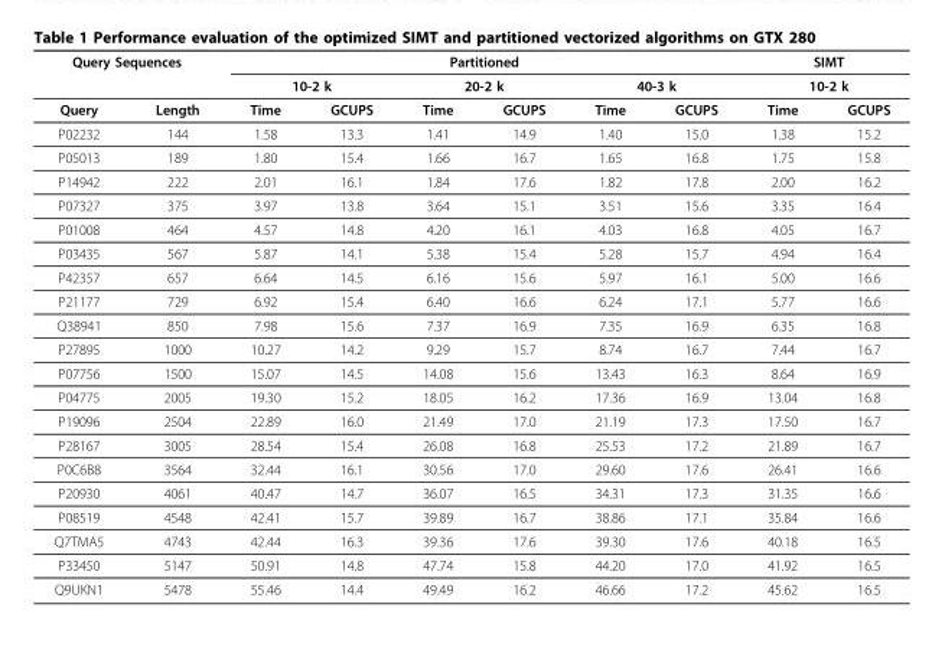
<table><thead><tr><td colspan="2">Query Sequences</td><td colspan="6">Partitioned</td><td rowspan="2" colspan="2">SIMT 10-2 k</td></tr><tr><td rowspan="2">Query</td><td rowspan="2">Length</td><td colspan="2">10-2 k</td><td colspan="2">20-2 k</td><td colspan="2">40-3 k</td></tr><tr><td>Time</td><td>GCUPS</td><td>Time</td><td>GCUPS</td><td>Time</td><td>GCUPS</td><td>Time</td><td>GCUPS</td></tr></thead><tbody><tr><td>P02232</td><td>144</td><td>1.58</td><td>13.3</td><td>1.41</td><td>14.9</td><td>1.40</td><td>15.0</td><td>1.38</td><td>15.2</td></tr><tr><td>P05013</td><td>189</td><td>1.80</td><td>15.4</td><td>1.66</td><td>16.7</td><td>1.65</td><td>16.8</td><td>1.75</td><td>15.8</td></tr><tr><td>P14942</td><td>222</td><td>2.01</td><td>16.1</td><td>1.84</td><td>17.6</td><td>1.82</td><td>17.8</td><td>2.00</td><td>16.2</td></tr><tr><td>P07327</td><td>375</td><td>3.97</td><td>13.8</td><td>3.64</td><td>15.1</td><td>3.51</td><td>15.6</td><td>3.35</td><td>16.4</td></tr><tr><td>P01008</td><td>464</td><td>4.57</td><td>14.8</td><td>4.20</td><td>16.1</td><td>4.03</td><td>16.8</td><td>4.05</td><td>16.7</td></tr><tr><td>P03435</td><td>567</td><td>5.87</td><td>14.1</td><td>5.38</td><td>15.4</td><td>5.28</td><td>15.7</td><td>4.94</td><td>16.4</td></tr><tr><td>P42357</td><td>657</td><td>6.64</td><td>14.5</td><td>6.16</td><td>15.6</td><td>5.97</td><td>16.1</td><td>5.00</td><td>16.6</td></tr><tr><td>P21177</td><td>729</td><td>6.92</td><td>15.4</td><td>6.40</td><td>16.6</td><td>6.24</td><td>17.1</td><td>5.77</td><td>16.6</td></tr><tr><td>Q38941</td><td>850</td><td>7.98</td><td>15.6</td><td>7.37</td><td>16.9</td><td>7.35</td><td>16.9</td><td>6.35</td><td>16.8</td></tr><tr><td>P27895</td><td>1000</td><td>10.27</td><td>14.2</td><td>9.29</td><td>15.7</td><td>8.74</td><td>16.7</td><td>7.44</td><td>16.7</td></tr><tr><td>P07756</td><td>1500</td><td>15.07</td><td>14.5</td><td>14.08</td><td>15.6</td><td>13.43</td><td>16.3</td><td>8.64</td><td>16.9</td></tr><tr><td>P04775</td><td>2005</td><td>19.30</td><td>15.2</td><td>18.05</td><td>16.2</td><td>17.36</td><td>16.9</td><td>13.04</td><td>16.8</td></tr><tr><td>P19096</td><td>2504</td><td>22.89</td><td>16.0</td><td>21.49</td><td>17.0</td><td>21.19</td><td>17.3</td><td>17.50</td><td>16.7</td></tr><tr><td>P28167</td><td>3005</td><td>28.54</td><td>15.4</td><td>26.08</td><td>16.8</td><td>25.53</td><td>17.2</td><td>21.89</td><td>16.7</td></tr><tr><td>P0C6B8</td><td>3564</td><td>32.44</td><td>16.1</td><td>30.56</td><td>17.0</td><td>29.60</td><td>17.6</td><td>26.41</td><td>16.6</td></tr><tr><td>P20930</td><td>4061</td><td>40.47</td><td>14.7</td><td>36.07</td><td>16.5</td><td>34.31</td><td>17.3</td><td>31.35</td><td>16.6</td></tr><tr><td>P08519</td><td>4548</td><td>42.41</td><td>15.7</td><td>39.89</td><td>16.7</td><td>38.86</td><td>17.1</td><td>35.84</td><td>16.6</td></tr><tr><td>Q7TMA5</td><td>4743</td><td>42.44</td><td>16.3</td><td>39.36</td><td>17.6</td><td>39.30</td><td>17.6</td><td>40.18</td><td>16.5</td></tr><tr><td>P33450</td><td>5147</td><td>50.91</td><td>14.8</td><td>47.74</td><td>15.8</td><td>44.20</td><td>17.0</td><td>41.92</td><td>16.5</td></tr><tr><td>Q9UKN1</td><td>5478</td><td>55.46</td><td>14.4</td><td>49.49</td><td>16.2</td><td>46.66</td><td>17.2</td><td>45.62</td><td>16.5</td></tr></tbody></table>